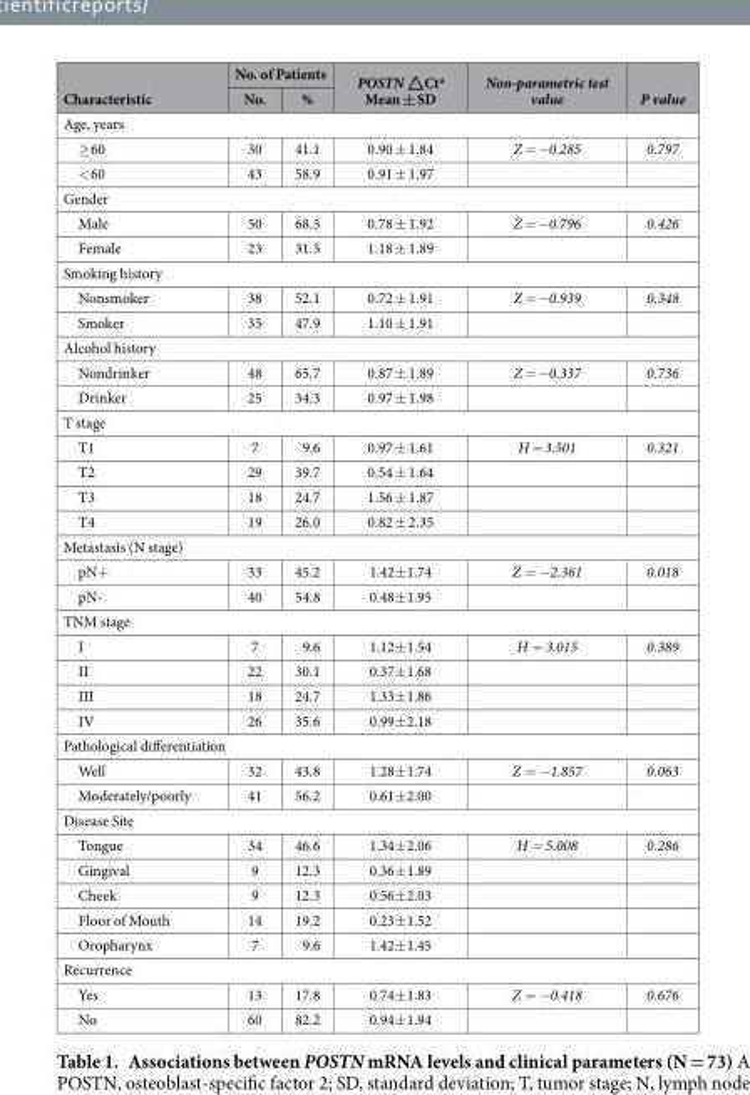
<table><thead><tr><td rowspan="2">Characteristic</td><td colspan="2">No. of Patients</td><td rowspan="2">POSTN △Ct<sup>a</sup> Mean ± SD</td><td rowspan="2">Non-parametric test value</td><td rowspan="2">P value</td></tr><tr><td>No.</td><td>%</td></tr></thead><tbody><tr><td colspan="6">Age, years</td></tr><tr><td>≥ 60</td><td>30</td><td>41.1</td><td>0.90 ± 1.84</td><td>Z = −0.285</td><td>0.797</td></tr><tr><td>&lt; 60</td><td>43</td><td>58.9</td><td>0.91 ± 1.97</td><td></td><td></td></tr><tr><td colspan="6">Gender</td></tr><tr><td>Male</td><td>50</td><td>68.5</td><td>0.78 ± 1.92</td><td>Z = −0.796</td><td>0.426</td></tr><tr><td>Female</td><td>23</td><td>31.5</td><td>1.18 ± 1.89</td><td></td><td></td></tr><tr><td colspan="6">Smoking history</td></tr><tr><td>Nonsmoker</td><td>38</td><td>52.1</td><td>0.72 ± 1.91</td><td>Z = −0.939</td><td>0.348</td></tr><tr><td>Smoker</td><td>35</td><td>47.9</td><td>1.10 ± 1.91</td><td></td><td></td></tr><tr><td colspan="6">Alcohol history</td></tr><tr><td>Nondrinker</td><td>48</td><td>65.7</td><td>0.87 ± 1.89</td><td>Z = −0.337</td><td>0.736</td></tr><tr><td>Drinker</td><td>25</td><td>34.3</td><td>0.97 ± 1.98</td><td></td><td></td></tr><tr><td colspan="6">T stage</td></tr><tr><td>T1</td><td>7</td><td>9.6</td><td>0.97 ± 1.61</td><td>H = 3.501</td><td>0.321</td></tr><tr><td>T2</td><td>29</td><td>39.7</td><td>0.54 ± 1.64</td><td></td><td></td></tr><tr><td>T3</td><td>18</td><td>24.7</td><td>1.56 ± 1.87</td><td></td><td></td></tr><tr><td>T4</td><td>19</td><td>26.0</td><td>0.82 ± 2.35</td><td></td><td></td></tr><tr><td colspan="6">Metastasis (N stage)</td></tr><tr><td>pN+</td><td>33</td><td>45.2</td><td>1.42± 1.74</td><td>Z = −2.361</td><td>0.018</td></tr><tr><td>pN-</td><td>40</td><td>54.8</td><td>0.48± 1.95</td><td></td><td></td></tr><tr><td colspan="6">TNM stage</td></tr><tr><td>I</td><td>7</td><td>9.6</td><td>1.12± 1.54</td><td>H = 3.015</td><td>0.389</td></tr><tr><td>II</td><td>22</td><td>30.1</td><td>0.37± 1.68</td><td></td><td></td></tr><tr><td>III</td><td>18</td><td>24.7</td><td>1.33± 1.86</td><td></td><td></td></tr><tr><td>IV</td><td>26</td><td>35.6</td><td>0.99± 2.18</td><td></td><td></td></tr><tr><td colspan="6">Pathological differentiation</td></tr><tr><td>Well</td><td>32</td><td>43.8</td><td>1.28± 1.74</td><td>Z = −1.857</td><td>0.063</td></tr><tr><td>Moderately/poorly</td><td>41</td><td>56.2</td><td>0.61± 2.00</td><td></td><td></td></tr><tr><td colspan="6">Disease Site</td></tr><tr><td>Tongue</td><td>34</td><td>46.6</td><td>1.34± 2.06</td><td>H = 5.008</td><td>0.286</td></tr><tr><td>Gingival</td><td>9</td><td>12.3</td><td>0.36± 1.89</td><td></td><td></td></tr><tr><td>Cheek</td><td>9</td><td>12.3</td><td>0.56± 2.03</td><td></td><td></td></tr><tr><td>Floor of Mouth</td><td>14</td><td>19.2</td><td>0.23± 1.52</td><td></td><td></td></tr><tr><td>Oropharynx</td><td>7</td><td>9.6</td><td>1.42± 1.45</td><td></td><td></td></tr><tr><td colspan="6">Recurrence</td></tr><tr><td>Yes</td><td>13</td><td>17.8</td><td>0.74± 1.83</td><td>Z = −0.418</td><td>0.676</td></tr><tr><td>No</td><td>60</td><td>82.2</td><td>0.94± 1.94</td><td></td><td></td></tr></tbody></table>